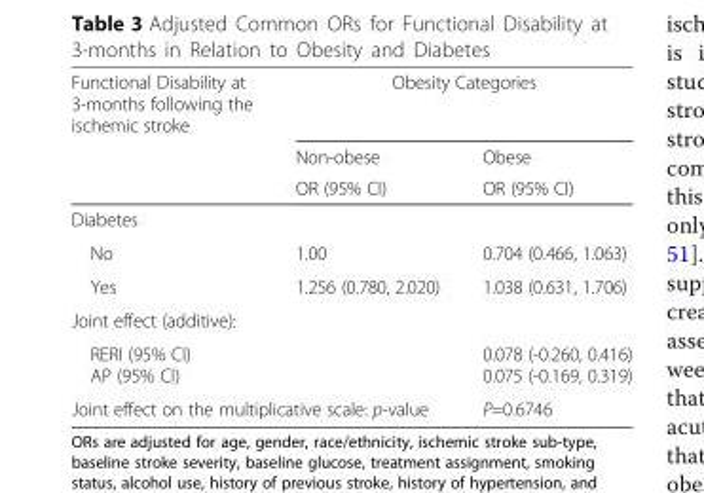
<table><thead><tr><td rowspan="3">Functional Disability at 3-months following the ischemic stroke</td><td colspan="2">Obesity Categories</td></tr><tr><td rowspan="2">Non-obese OR (95% CI)</td><td rowspan="2">Obese OR (95% CI)</td></tr><tr></tr></thead><tbody><tr><td colspan="3">Diabetes</td></tr><tr><td>No</td><td>1.00</td><td>0.704 (0.466, 1.063)</td></tr><tr><td>Yes</td><td>1.256 (0.780, 2.020)</td><td>1.038 (0.631, 1.706)</td></tr><tr><td colspan="3">Joint effect (additive):</td></tr><tr><td>RERI (95% CI) AP (95% CI)</td><td></td><td>0.078 (-0.260, 0.416) 0.075 (-0.169, 0.319)</td></tr><tr><td colspan="2">Joint effect on the multiplicative scale: p-value</td><td>P=0.6746</td></tr></tbody></table>